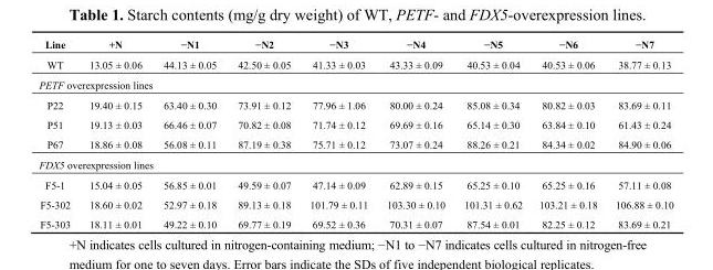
<table><thead><tr><td>Line</td><td>+N</td><td>−N1</td><td>−N2</td><td>−N3</td><td>−N4</td><td>−N5</td><td>−N6</td><td>−N7</td></tr></thead><tbody><tr><td>WT</td><td>13.05 ± 0.06</td><td>44.13 ± 0.05</td><td>42.50 ± 0.05</td><td>41.33 ± 0.03</td><td>43.33 ± 0.09</td><td>40.53 ± 0.04</td><td>40.53 ± 0.06</td><td>38.77 ± 0.13</td></tr><tr><td colspan="9">PETF overexpression lines</td></tr><tr><td>P22</td><td>19.40 ± 0.15</td><td>63.40 ± 0.30</td><td>73.91 ± 0.12</td><td>77.96 ± 1.06</td><td>80.00 ± 0.24</td><td>85.08 ± 0.34</td><td>80.82 ± 0.03</td><td>83.69 ± 0.11</td></tr><tr><td>P51</td><td>19.13 ± 0.03</td><td>66.46 ± 0.07</td><td>70.82 ± 0.08</td><td>71.74 ± 0.12</td><td>69.69 ± 0.16</td><td>65.14 ± 0.30</td><td>63.84 ± 0.10</td><td>61.43 ± 0.24</td></tr><tr><td>P67</td><td>18.86 ± 0.08</td><td>56.08 ± 0.11</td><td>87.19 ± 0.38</td><td>75.71 ± 0.12</td><td>73.07 ± 0.24</td><td>88.26 ± 0.21</td><td>84.34 ± 0.02</td><td>84.90 ± 0.06</td></tr><tr><td colspan="9">FDX5 overexpression lines</td></tr><tr><td>F5-1</td><td>15.04 ± 0.05</td><td>56.85 ± 0.01</td><td>49.59 ± 0.07</td><td>47.14 ± 0.09</td><td>62.89 ± 0.15</td><td>65.25 ± 0.10</td><td>65.25 ± 0.16</td><td>57.11 ± 0.08</td></tr><tr><td>F5-302</td><td>18.60 ± 0.02</td><td>52.97 ± 0.18</td><td>89.13 ± 0.18</td><td>101.79 ± 0.11</td><td>103.30 ± 0.10</td><td>101.31 ± 0.62</td><td>103.21 ± 0.18</td><td>106.88 ± 0.10</td></tr><tr><td>F5-303</td><td>18.11 ± 0.01</td><td>49.22 ± 0.10</td><td>69.77 ± 0.19</td><td>69.52 ± 0.36</td><td>70.31 ± 0.07</td><td>87.54 ± 0.01</td><td>82.25 ± 0.12</td><td>83.69 ± 0.21</td></tr></tbody></table>